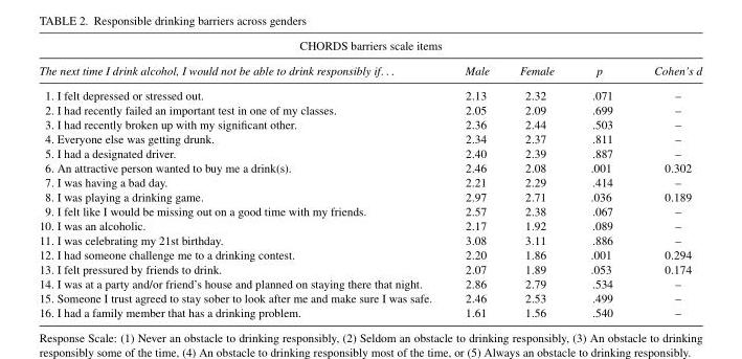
<table><thead><tr><td colspan="5">CHORDS barriers scale items</td></tr><tr><td>The next time I drink alcohol, I would not be able to drink responsibly if. . .</td><td>Male</td><td>Female</td><td>p</td><td>Cohen’s d</td></tr></thead><tbody><tr><td>1. I felt depressed or stressed out.</td><td>2.13</td><td>2.32</td><td>.071</td><td>–</td></tr><tr><td>2. I had recently failed an important test in one of my classes.</td><td>2.05</td><td>2.09</td><td>.699</td><td>–</td></tr><tr><td>3. I had recently broken up with my significant other.</td><td>2.36</td><td>2.44</td><td>.503</td><td>–</td></tr><tr><td>4. Everyone else was getting drunk.</td><td>2.34</td><td>2.37</td><td>.811</td><td>–</td></tr><tr><td>5. I had a designated driver.</td><td>2.40</td><td>2.39</td><td>.887</td><td>–</td></tr><tr><td>6. An attractive person wanted to buy me a drink(s).</td><td>2.46</td><td>2.08</td><td>.001</td><td>0.302</td></tr><tr><td>7. I was having a bad day.</td><td>2.21</td><td>2.29</td><td>.414</td><td>–</td></tr><tr><td>8. I was playing a drinking game.</td><td>2.97</td><td>2.71</td><td>.036</td><td>0.189</td></tr><tr><td>9. I felt like I would be missing out on a good time with my friends.</td><td>2.57</td><td>2.38</td><td>.067</td><td>–</td></tr><tr><td>10. I was an alcoholic.</td><td>2.17</td><td>1.92</td><td>.089</td><td>–</td></tr><tr><td>11. I was celebrating my 21st birthday.</td><td>3.08</td><td>3.11</td><td>.886</td><td>–</td></tr><tr><td>12. I had someone challenge me to a drinking contest.</td><td>2.20</td><td>1.86</td><td>.001</td><td>0.294</td></tr><tr><td>13. I felt pressured by friends to drink.</td><td>2.07</td><td>1.89</td><td>.053</td><td>0.174</td></tr><tr><td>14. I was at a party and/or friend’s house and planned on staying there that night.</td><td>2.86</td><td>2.79</td><td>.534</td><td>–</td></tr><tr><td>15. Someone I trust agreed to stay sober to look after me and make sure I was safe.</td><td>2.46</td><td>2.53</td><td>.499</td><td>–</td></tr><tr><td>16. I had a family member that has a drinking problem.</td><td>1.61</td><td>1.56</td><td>.540</td><td>–</td></tr></tbody></table>